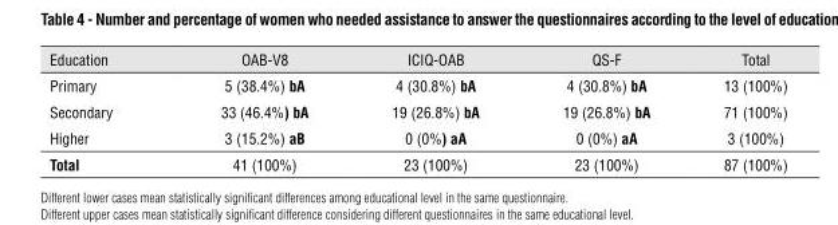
<table><thead><tr><td>Education</td><td>OAB-V8</td><td>ICIQ-OAB</td><td>QS-F</td><td>Total</td></tr></thead><tbody><tr><td>Primary</td><td>5 (38.4%) bA</td><td>4 (30.8%) bA</td><td>4 (30.8%) bA</td><td>13 (100%)</td></tr><tr><td>Secondary</td><td>33 (46.4%) bA</td><td>19 (26.8%) bA</td><td>19 (26.8%) bA</td><td>71 (100%)</td></tr><tr><td>Higher</td><td>3 (15.2%) aB</td><td>0 (0%) aA</td><td>0 (0%) aA</td><td>3 (100%)</td></tr><tr><td>Total</td><td>41 (100%)</td><td>23 (100%)</td><td>23 (100%)</td><td>87 (100%)</td></tr></tbody></table>